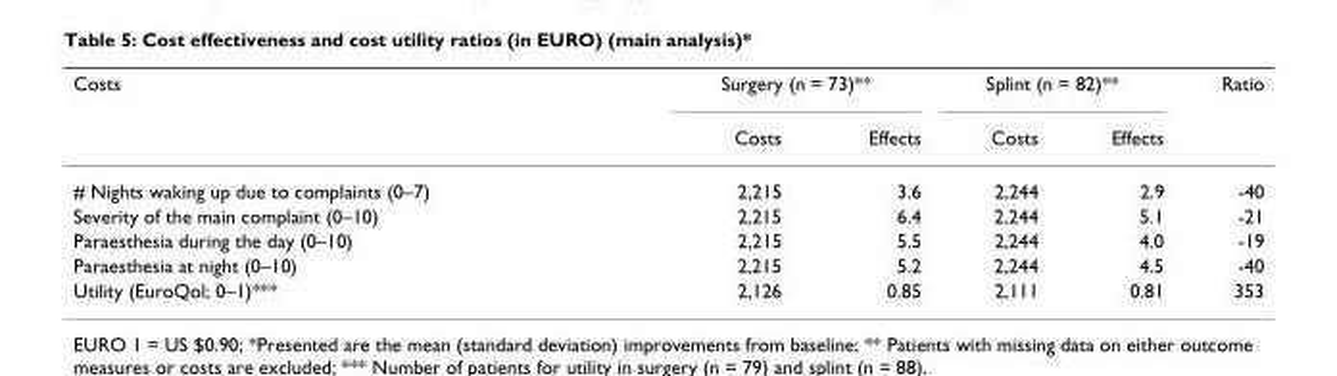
<table><thead><tr><td rowspan="2">Costs</td><td colspan="2">Surgery (n = 73)**</td><td colspan="2">Splint (n = 82)**</td><td rowspan="2">Ratio</td></tr><tr><td>Costs</td><td>Effects</td><td>Costs</td><td>Effects</td></tr></thead><tbody><tr><td># Nights waking up due to complaints (0–7)</td><td>2,215</td><td>3.6</td><td>2,244</td><td>2.9</td><td>-40</td></tr><tr><td>Severity of the main complaint (0–10)</td><td>2,215</td><td>6.4</td><td>2,244</td><td>5.1</td><td>-21</td></tr><tr><td>Paraesthesia during the day (0–10)</td><td>2,215</td><td>5.5</td><td>2,244</td><td>4.0</td><td>-19</td></tr><tr><td>Paraesthesia at night (0–10)</td><td>2,215</td><td>5.2</td><td>2,244</td><td>4.5</td><td>-40</td></tr><tr><td>Utility (EuroQol; 0–1)***</td><td>2,126</td><td>0.85</td><td>2,111</td><td>0.81</td><td>353</td></tr></tbody></table>